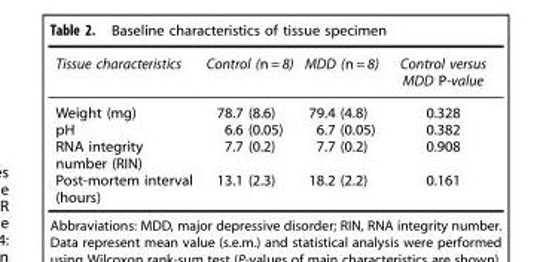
<table><thead><tr><td>Tissue characteristics</td><td>Control (n = 8)</td><td>MDD (n = 8)</td><td>Control versus MDD P-value</td></tr></thead><tbody><tr><td>Weight (mg)</td><td>78.7 (8.6)</td><td>79.4 (4.8)</td><td>0.328</td></tr><tr><td>pH</td><td>6.6 (0.05)</td><td>6.7 (0.05)</td><td>0.382</td></tr><tr><td>RNA integrity number (RIN)</td><td>7.7 (0.2)</td><td>7.7 (0.2)</td><td>0.908</td></tr><tr><td>Post-mortem interval (hours)</td><td>13.1 (2.3)</td><td>18.2 (2.2)</td><td>0.161</td></tr></tbody></table>